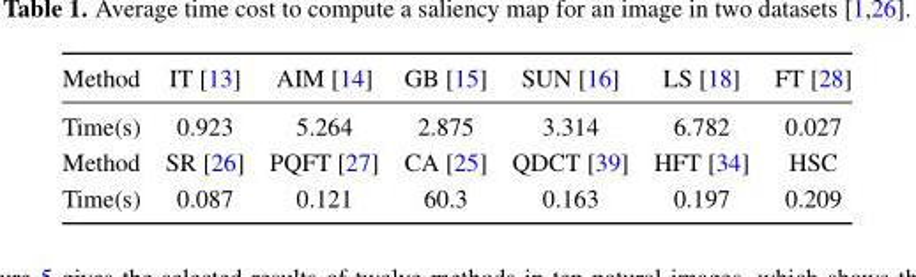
<table><thead><tr><td>Method</td><td>IT [13]</td><td>AIM [14]</td><td>GB [15]</td><td>SUN [16]</td><td>LS [18]</td><td>FT [28]</td></tr></thead><tbody><tr><td>Time(s)</td><td>0.923</td><td>5.264</td><td>2.875</td><td>3.314</td><td>6.782</td><td>0.027</td></tr><tr><td>Method</td><td>SR [26]</td><td>PQFT [27]</td><td>CA [25]</td><td>QDCT [39]</td><td>HFT [34]</td><td>HSC</td></tr><tr><td>Time(s)</td><td>0.087</td><td>0.121</td><td>60.3</td><td>0.163</td><td>0.197</td><td>0.209</td></tr></tbody></table>